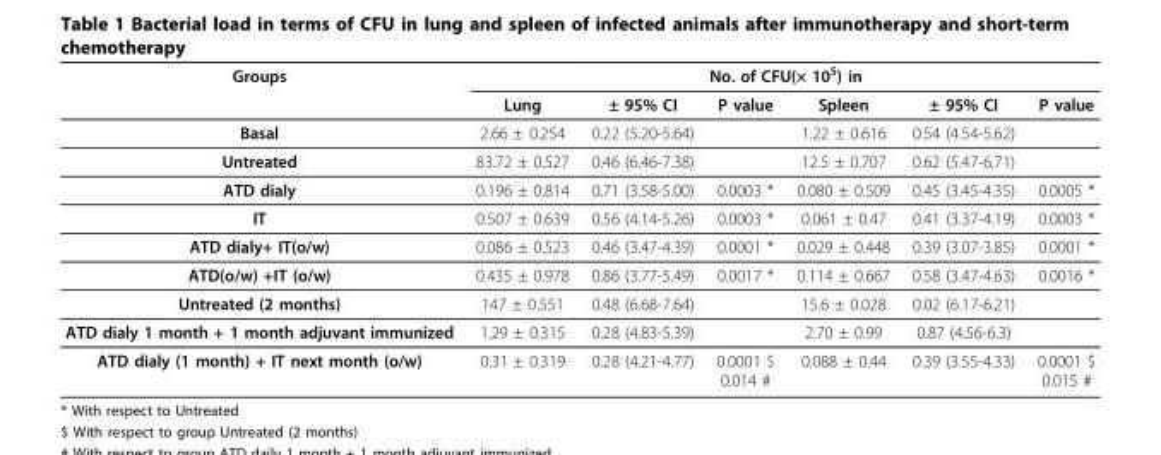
<table><thead><tr><td rowspan="2">Groups</td><td colspan="6">No. of CFU(× 10<sup>5</sup>) in</td></tr><tr><td>Lung</td><td>± 95% CI</td><td>P value</td><td>Spleen</td><td>± 95% CI</td><td>P value</td></tr></thead><tbody><tr><td>Basal</td><td>2.66 ± 0.254</td><td>0.22 (5.20-5.64)</td><td></td><td>1.22 ± 0.616</td><td>0.54 (4.54-5.62)</td><td></td></tr><tr><td>Untreated</td><td>83.72 ± 0.527</td><td>0.46 (6.46-7.38)</td><td></td><td>12.5 ± 0.707</td><td>0.62 (5.47-6.71)</td><td></td></tr><tr><td>ATD dialy</td><td>0.196 ± 0.814</td><td>0.71 (3.58-5.00)</td><td>0.0003 *</td><td>0.080 ± 0.509</td><td>0.45 (3.45-4.35)</td><td>0.0005 *</td></tr><tr><td>IT</td><td>0.507 ± 0.639</td><td>0.56 (4.14-5.26)</td><td>0.0003 *</td><td>0.061 ± 0.47</td><td>0.41 (3.37-4.19)</td><td>0.0003 *</td></tr><tr><td>ATD dialy+ IT(o/w)</td><td>0.086 ± 0.523</td><td>0.46 (3.47-4.39)</td><td>0.0001 *</td><td>0.029 ± 0.448</td><td>0.39 (3.07-3.85)</td><td>0.0001 *</td></tr><tr><td>ATD(o/w) +IT (o/w)</td><td>0.435 ± 0.978</td><td>0.86 (3.77-5.49)</td><td>0.0017 *</td><td>0.114 ± 0.667</td><td>0.58 (3.47-4.63)</td><td>0.0016 *</td></tr><tr><td>Untreated (2 months)</td><td>147 ± 0.551</td><td>0.48 (6.68-7.64)</td><td></td><td>15.6 ± 0.028</td><td>0.02 (6.17-6.21)</td><td></td></tr><tr><td>ATD dialy 1 month + 1 month adjuvant immunized</td><td>1.29 ± 0.315</td><td>0.28 (4.83-5.39)</td><td></td><td>2.70 ± 0.99</td><td>0.87 (4.56-6.3)</td><td></td></tr><tr><td>ATD dialy (1 month) + IT next month (o/w)</td><td>0.31 ± 0.319</td><td>0.28 (4.21-4.77)</td><td>0.0001 $ 0.014 #</td><td>0.088 ± 0.44</td><td>0.39 (3.55-4.33)</td><td>0.0001 $ 0.015 #</td></tr></tbody></table>